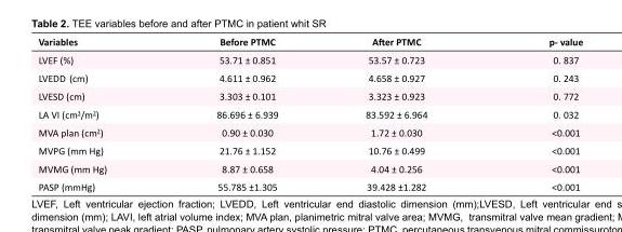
<table><tbody><tr><td>Variables</td><td>Before PTMC</td><td>After PTMC</td><td>p- value</td></tr><tr><td>LVEF (%)</td><td>53.71 ± 0.851</td><td>53.57 ± 0.723</td><td>0. 837</td></tr><tr><td>LVEDD (cm)</td><td>4.611 ± 0.962</td><td>4.658 ± 0.927</td><td>0. 243</td></tr><tr><td>LVESD (cm)</td><td>3.303 ± 0.101</td><td>3.323 ± 0.923</td><td>0. 772</td></tr><tr><td>LA VI (cm<sup>3</sup>/m<sup>2</sup>)</td><td>86.696 ± 6.939</td><td>83.592 ± 6.964</td><td>0. 032</td></tr><tr><td>MVA plan (cm<sup>2</sup>)</td><td>0.90 ± 0.030</td><td>1.72 ± 0.030</td><td>&lt;0.001</td></tr><tr><td>MVPG (mm Hg)</td><td>21.76 ± 1.152</td><td>10.76 ± 0.499</td><td>&lt;0.001</td></tr><tr><td>MVMG (mm Hg)</td><td>8.87 ± 0.658</td><td>4.04 ± 0.256</td><td>&lt;0.001</td></tr><tr><td>PASP (mmHg)</td><td>55.785 ±1.305</td><td>39.428 ±1.282</td><td>&lt;0.001</td></tr></tbody></table>